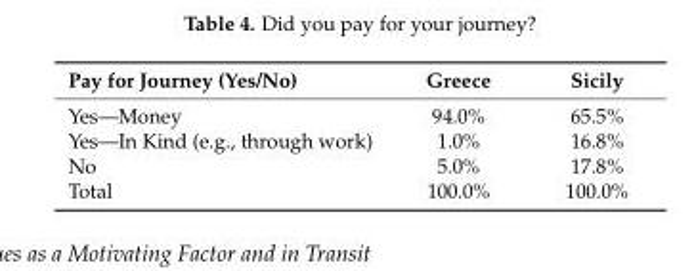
<table><thead><tr><td>Pay for Journey (Yes/No)</td><td>Greece</td><td>Sicily</td></tr></thead><tbody><tr><td>Yes—Money</td><td>94.0%</td><td>65.5%</td></tr><tr><td>Yes—In Kind (e.g., through work)</td><td>1.0%</td><td>16.8%</td></tr><tr><td>No</td><td>5.0%</td><td>17.8%</td></tr><tr><td>Total</td><td>100.0%</td><td>100.0%</td></tr></tbody></table>